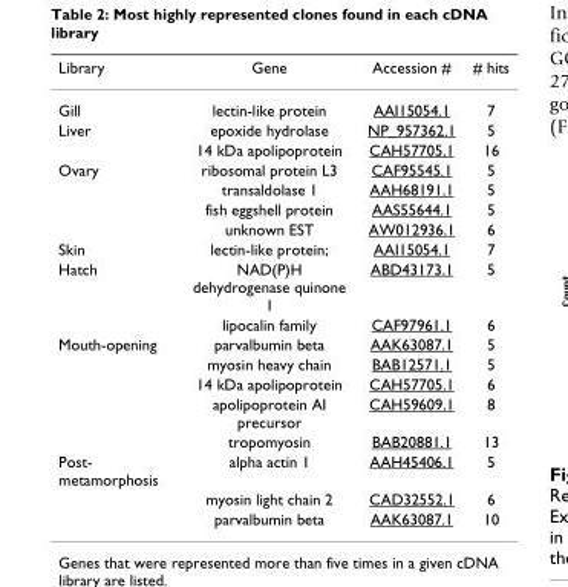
<table><thead><tr><td>Library</td><td>Gene</td><td>Accession #</td><td># hits</td></tr></thead><tbody><tr><td>Gill</td><td>lectin-like protein</td><td>AAI15054.1</td><td>7</td></tr><tr><td rowspan="2">Liver</td><td>epoxide hydrolase</td><td>NP_957362.1</td><td>5</td></tr><tr><td>14 kDa apolipoprotein</td><td>CAH57705.1</td><td>16</td></tr><tr><td rowspan="4">Ovary</td><td>ribosomal protein L3</td><td>CAF95545.1</td><td>5</td></tr><tr><td>transaldolase 1</td><td>AAH68191.1</td><td>5</td></tr><tr><td>fish eggshell protein</td><td>AAS55644.1</td><td>5</td></tr><tr><td>unknown EST</td><td>AW012936.1</td><td>6</td></tr><tr><td>Skin</td><td>lectin-like protein;</td><td>AAI15054.1</td><td>7</td></tr><tr><td rowspan="2">Hatch</td><td>NAD(P)H dehydrogenase quinone 1</td><td>ABD43173.1</td><td>5</td></tr><tr><td>lipocalin family</td><td>CAF97961.1</td><td>6</td></tr><tr><td rowspan="5">Mouth-opening</td><td>parvalbumin beta</td><td>AAK63087.1</td><td>5</td></tr><tr><td>myosin heavy chain</td><td>BAB12571.1</td><td>5</td></tr><tr><td>14 kDa apolipoprotein</td><td>CAH57705.1</td><td>6</td></tr><tr><td>apolipoprotein AI precursor</td><td>CAH59609.1</td><td>8</td></tr><tr><td>tropomyosin</td><td>BAB20881.1</td><td>13</td></tr><tr><td rowspan="3">Post- metamorphosis</td><td>alpha actin 1</td><td>AAH45406.1</td><td>5</td></tr><tr><td>myosin light chain 2</td><td>CAD32552.1</td><td>6</td></tr><tr><td>parvalbumin beta</td><td>AAK63087.1</td><td>10</td></tr></tbody></table>